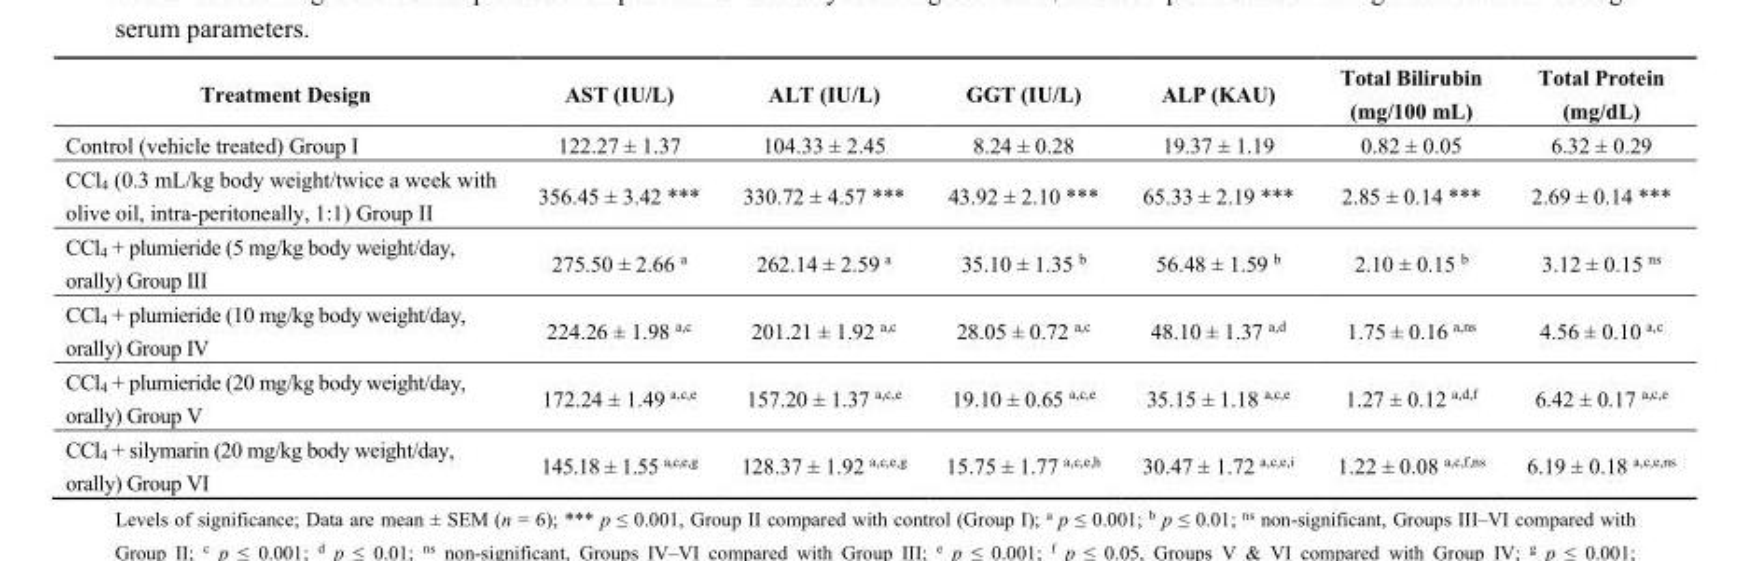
<table><thead><tr><td>Treatment Design</td><td>AST (IU/L)</td><td>ALT (IU/L)</td><td>GGT (IU/L)</td><td>ALP (KAU)</td><td>Total Bilirubin (mg/100 mL)</td><td>Total Protein (mg/dL)</td></tr></thead><tbody><tr><td>Control (vehicle treated) Group I</td><td>122.27 ± 1.37</td><td>104.33 ± 2.45</td><td>8.24 ± 0.28</td><td>19.37 ± 1.19</td><td>0.82 ± 0.05</td><td>6.32 ± 0.29</td></tr><tr><td>CCl<sub>4</sub> (0.3 mL/kg body weight/twice a week with olive oil, intra-peritoneally, 1:1) Group II</td><td>356.45 ± 3.42 ***</td><td>330.72 ± 4.57 ***</td><td>43.92 ± 2.10 ***</td><td>65.33 ± 2.19 ***</td><td>2.85 ± 0.14 ***</td><td>2.69 ± 0.14 ***</td></tr><tr><td>CCl<sub>4</sub> + plumieride (5 mg/kg body weight/day, orally) Group III</td><td>275.50 ± 2.66 <sup>a</sup></td><td>262.14 ± 2.59 <sup>a</sup></td><td>35.10 ± 1.35 <sup>b</sup></td><td>56.48 ± 1.59 <sup>b</sup></td><td>2.10 ± 0.15 <sup>b</sup></td><td>3.12 ± 0.15 <sup>ns</sup></td></tr><tr><td>CCl<sub>4</sub> + plumieride (10 mg/kg body weight/day, orally) Group IV</td><td>224.26 ± 1.98 <sup>a,c</sup></td><td>201.21 ± 1.92 <sup>a,c</sup></td><td>28.05 ± 0.72 <sup>a,c</sup></td><td>48.10 ± 1.37 <sup>a,d</sup></td><td>1.75 ± 0.16 <sup>a,ns</sup></td><td>4.56 ± 0.10 <sup>a,c</sup></td></tr><tr><td>CCl<sub>4</sub> + plumieride (20 mg/kg body weight/day, orally) Group V</td><td>172.24 ± 1.49 <sup>a,c,e</sup></td><td>157.20 ± 1.37 <sup>a,c,e</sup></td><td>19.10 ± 0.65 <sup>a,c,e</sup></td><td>35.15 ± 1.18 <sup>a,c,e</sup></td><td>1.27 ± 0.12 <sup>a,d,f</sup></td><td>6.42 ± 0.17 <sup>a,c,e</sup></td></tr><tr><td>CCl<sub>4</sub> + silymarin (20 mg/kg body weight/day, orally) Group VI</td><td>145.18 ± 1.55 <sup>a,c,e,g</sup></td><td>128.37 ± 1.92 <sup>a,c,e,g</sup></td><td>15.75 ± 1.77 <sup>a,c,e,h</sup></td><td>30.47 ± 1.72 <sup>a,c,e,i</sup></td><td>1.22 ± 0.08 <sup>a,c,f,ns</sup></td><td>6.19 ± 0.18 <sup>a,c,e,ns</sup></td></tr></tbody></table>